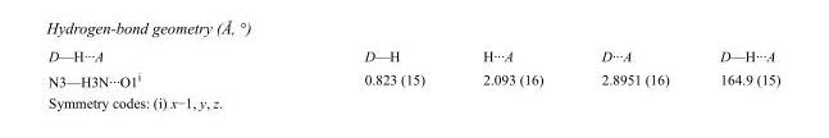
<table><tbody><tr><td>D—H···A</td><td>D—H</td><td>H···A</td><td>D···A</td><td>D—H···A</td></tr><tr><td>N3—H3N···O1<sup>i</sup></td><td>0.823 (15)</td><td>2.093 (16)</td><td>2.8951 (16)</td><td>164.9 (15)</td></tr></tbody></table>